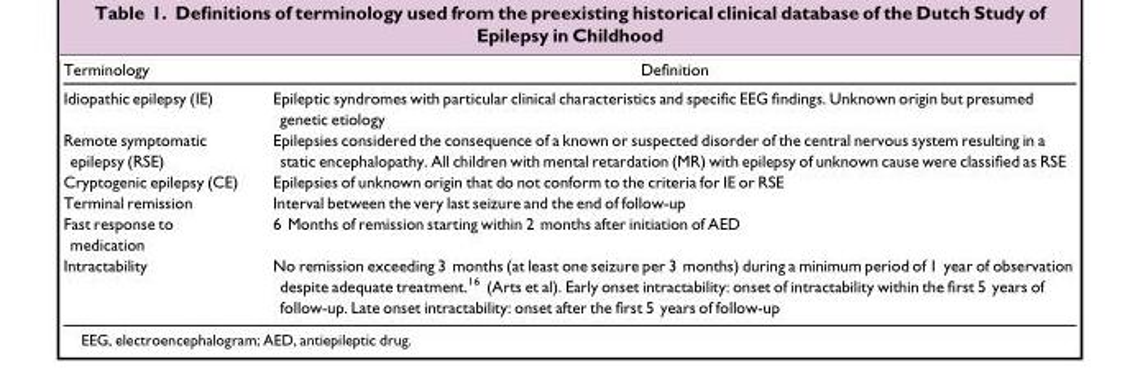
<table><thead><tr><td>Terminology</td><td>Definition</td></tr></thead><tbody><tr><td>Idiopathic epilepsy (IE)</td><td>Epileptic syndromes with particular clinical characteristics and specific EEG findings. Unknown origin but presumed genetic etiology</td></tr><tr><td>Remote symptomatic epilepsy (RSE)</td><td>Epilepsies considered the consequence of a known or suspected disorder of the central nervous system resulting in a static encephalopathy. All children with mental retardation (MR) with epilepsy of unknown cause were classified as RSE</td></tr><tr><td>Cryptogenic epilepsy (CE)</td><td>Epilepsies of unknown origin that do not conform to the criteria for IE or RSE</td></tr><tr><td>Terminal remission</td><td>Interval between the very last seizure and the end of follow-up</td></tr><tr><td>Fast response to medication</td><td>6 Months of remission starting within 2 months after initiation of AED</td></tr><tr><td>Intractability</td><td>No remission exceeding 3 months (at least one seizure per 3 months) during a minimum period of 1 year of observation despite adequate treatment.<sup>16</sup> (Arts et al). Early onset intractability: onset of intractability within the first 5 years of follow-up. Late onset intractability: onset after the first 5 years of follow-up</td></tr></tbody></table>